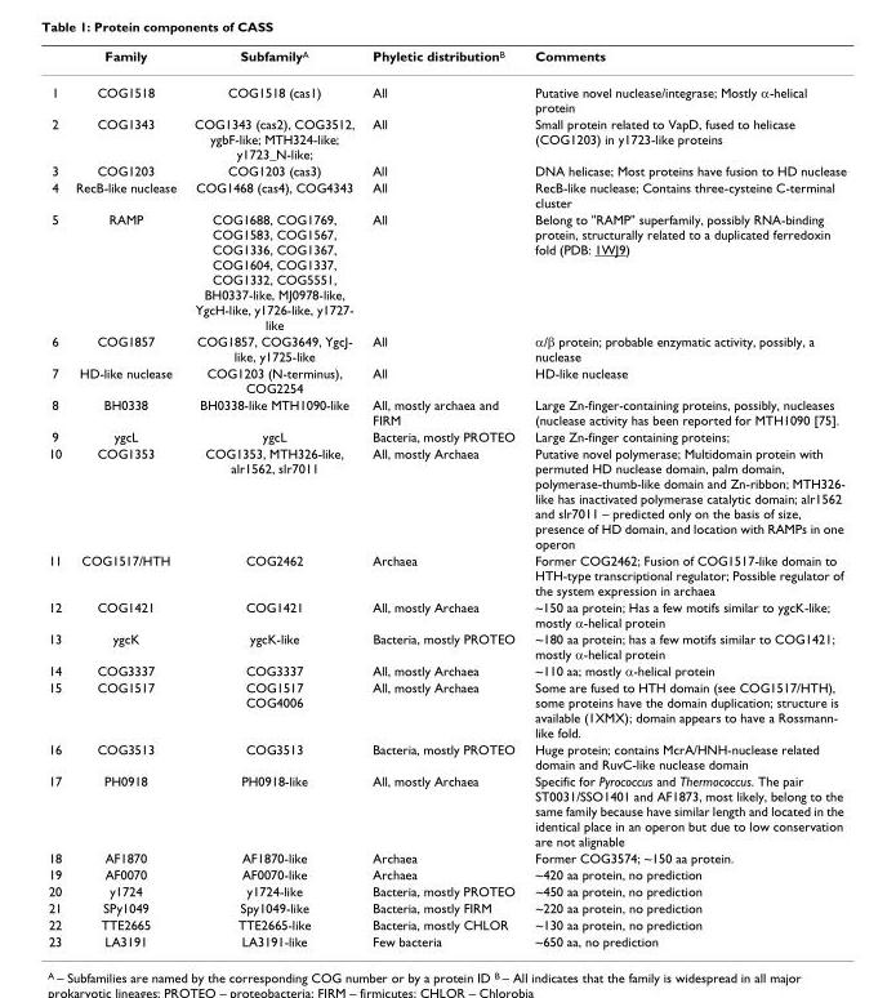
<table><thead><tr><td></td><td>Family</td><td>Subfamily<sup>A</sup></td><td>Phyletic distribution<sup>B</sup></td><td>Comments</td></tr></thead><tbody><tr><td>1</td><td>COG1518</td><td>COG1518 (cas1)</td><td>All</td><td>Putative novel nuclease/integrase; Mostly α-helical protein</td></tr><tr><td>2</td><td>COG1343</td><td>COG1343 (cas2), COG3512, ygbF-like; MTH324-like; y1723_N-like;</td><td>All</td><td>Small protein related to VapD, fused to helicase (COG1203) in y1723-like proteins</td></tr><tr><td>3</td><td>COG1203</td><td>COG1203 (cas3)</td><td>All</td><td>DNA helicase; Most proteins have fusion to HD nuclease</td></tr><tr><td>4</td><td>RecB-like nuclease</td><td>COG1468 (cas4), COG4343</td><td>All</td><td>RecB-like nuclease; Contains three-cysteine C-terminal cluster</td></tr><tr><td>5</td><td>RAMP</td><td>COG1688, COG1769, COG1583, COG1567, COG1336, COG1367, COG1604, COG1337, COG1332, COG5551, BH0337-like, MJ0978-like, YgcH-like, y1726-like, y1727- like</td><td>All</td><td>Belong to &quot;RAMP&quot; superfamily, possibly RNA-binding protein, structurally related to a duplicated ferredoxin fold (PDB: 1WJ9)</td></tr><tr><td>6</td><td>COG1857</td><td>COG1857, COG3649, YgcJ- like, y1725-like</td><td>All</td><td>α/β protein; probable enzymatic activity, possibly, a nuclease</td></tr><tr><td>7</td><td>HD-like nuclease</td><td>COG1203 (N-terminus), COG2254</td><td>All</td><td>HD-like nuclease</td></tr><tr><td>8</td><td>BH0338</td><td>BH0338-like MTH1090-like</td><td>All, mostly archaea and FIRM</td><td>Large Zn-finger-containing proteins, possibly, nucleases (nuclease activity has been reported for MTH1090 [75].</td></tr><tr><td>9</td><td>ygcL</td><td>ygcL</td><td>Bacteria, mostly PROTEO</td><td>Large Zn-finger containing proteins;</td></tr><tr><td>10</td><td>COG1353</td><td>COG1353, MTH326-like, alr1562, slr7011</td><td>All, mostly Archaea</td><td>Putative novel polymerase; Multidomain protein with permuted HD nuclease domain, palm domain, polymerase-thumb-like domain and Zn-ribbon; MTH326- like has inactivated polymerase catalytic domain; alr1562 and slr7011 – predicted only on the basis of size, presence of HD domain, and location with RAMPs in one operon</td></tr><tr><td>11</td><td>COG1517/HTH</td><td>COG2462</td><td>Archaea</td><td>Former COG2462; Fusion of COG1517-like domain to HTH-type transcriptional regulator; Possible regulator of the system expression in archaea</td></tr><tr><td>12</td><td>COG1421</td><td>COG1421</td><td>All, mostly Archaea</td><td>~150 aa protein; Has a few motifs similar to ygcK-like; mostly α-helical protein</td></tr><tr><td>13</td><td>ygcK</td><td>ygcK-like</td><td>Bacteria, mostly PROTEO</td><td>~180 aa protein; has a few motifs similar to COG1421; mostly α-helical protein</td></tr><tr><td>14</td><td>COG3337</td><td>COG3337</td><td>All, mostly Archaea</td><td>~110 aa; mostly α-helical protein</td></tr><tr><td>15</td><td>COG1517</td><td>COG1517 COG4006</td><td>All, mostly Archaea</td><td>Some are fused to HTH domain (see COG1517/HTH), some proteins have the domain duplication; structure is available (1XMX); domain appears to have a Rossmann- like fold.</td></tr><tr><td>16</td><td>COG3513</td><td>COG3513</td><td>Bacteria, mostly PROTEO</td><td>Huge protein; contains McrA/HNH-nuclease related domain and RuvC-like nuclease domain</td></tr><tr><td>17</td><td>PH0918</td><td>PH0918-like</td><td>All, mostly Archaea</td><td>Specific for Pyrococcus and Thermococcus. The pair ST0031/SSO1401 and AF1873, most likely, belong to the same family because have similar length and located in the identical place in an operon but due to low conservation are not alignable</td></tr><tr><td>18</td><td>AF1870</td><td>AF1870-like</td><td>Archaea</td><td>Former COG3574; ~150 aa protein.</td></tr><tr><td>19</td><td>AF0070</td><td>AF0070-like</td><td>Archaea</td><td>~420 aa protein, no prediction</td></tr><tr><td>20</td><td>y1724</td><td>y1724-like</td><td>Bacteria, mostly PROTEO</td><td>~450 aa protein, no prediction</td></tr><tr><td>21</td><td>SPy1049</td><td>Spy1049-like</td><td>Bacteria, mostly FIRM</td><td>~220 aa protein, no prediction</td></tr><tr><td>22</td><td>TTE2665</td><td>TTE2665-like</td><td>Bacteria, mostly CHLOR</td><td>~130 aa protein, no prediction</td></tr><tr><td>23</td><td>LA3191</td><td>LA3191-like</td><td>Few bacteria</td><td>~650 aa, no prediction</td></tr></tbody></table>